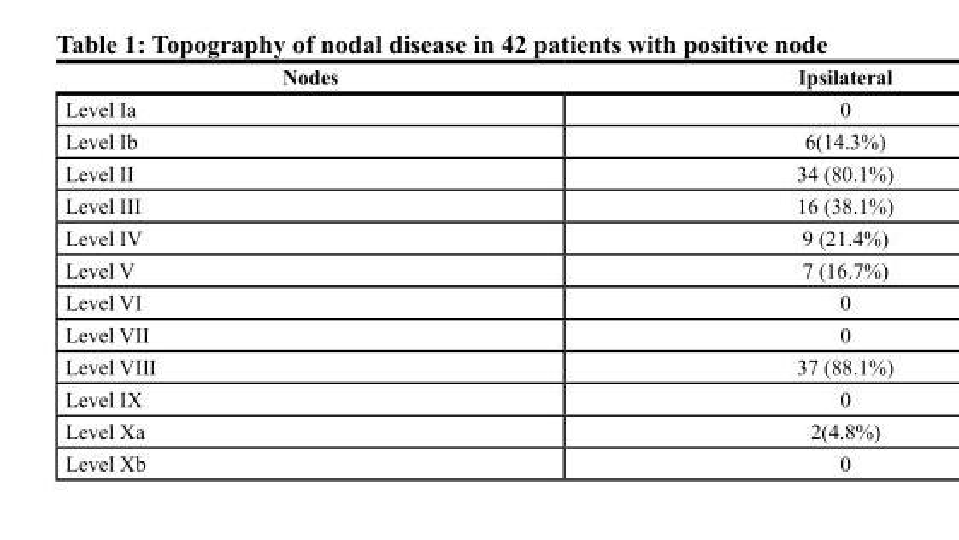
<table><thead><tr><td>Nodes</td><td>Ipsilateral</td></tr></thead><tbody><tr><td>Level Ia</td><td>0</td></tr><tr><td>Level Ib</td><td>6(14.3%)</td></tr><tr><td>Level II</td><td>34 (80.1%)</td></tr><tr><td>Level III</td><td>16 (38.1%)</td></tr><tr><td>Level IV</td><td>9 (21.4%)</td></tr><tr><td>Level V</td><td>7 (16.7%)</td></tr><tr><td>Level VI</td><td>0</td></tr><tr><td>Level VII</td><td>0</td></tr><tr><td>Level VIII</td><td>37 (88.1%)</td></tr><tr><td>Level IX</td><td>0</td></tr><tr><td>Level Xa</td><td>2(4.8%)</td></tr><tr><td>Level Xb</td><td>0</td></tr></tbody></table>